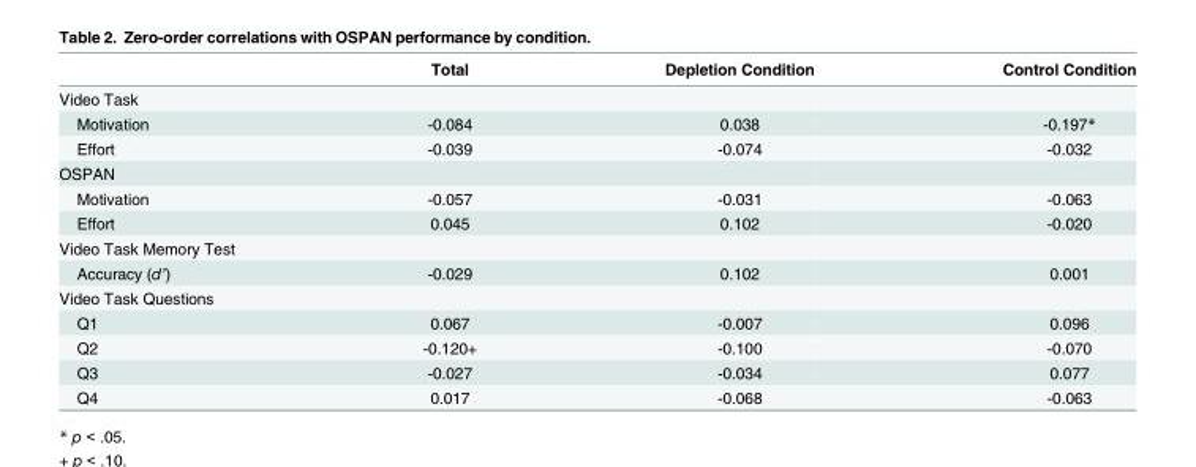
<table><thead><tr><td></td><td>Total</td><td>Depletion Condition</td><td>Control Condition</td></tr></thead><tbody><tr><td colspan="4">Video Task</td></tr><tr><td>Motivation</td><td>-0.084</td><td>0.038</td><td>-0.197*</td></tr><tr><td>Effort</td><td>-0.039</td><td>-0.074</td><td>-0.032</td></tr><tr><td colspan="4">OSPAN</td></tr><tr><td>Motivation</td><td>-0.057</td><td>-0.031</td><td>-0.063</td></tr><tr><td>Effort</td><td>0.045</td><td>0.102</td><td>-0.020</td></tr><tr><td colspan="4">Video Task Memory Test</td></tr><tr><td>Accuracy (d’)</td><td>-0.029</td><td>0.102</td><td>0.001</td></tr><tr><td colspan="4">Video Task Questions</td></tr><tr><td>Q1</td><td>0.067</td><td>-0.007</td><td>0.096</td></tr><tr><td>Q2</td><td>-0.120+</td><td>-0.100</td><td>-0.070</td></tr><tr><td>Q3</td><td>-0.027</td><td>-0.034</td><td>0.077</td></tr><tr><td>Q4</td><td>0.017</td><td>-0.068</td><td>-0.063</td></tr></tbody></table>